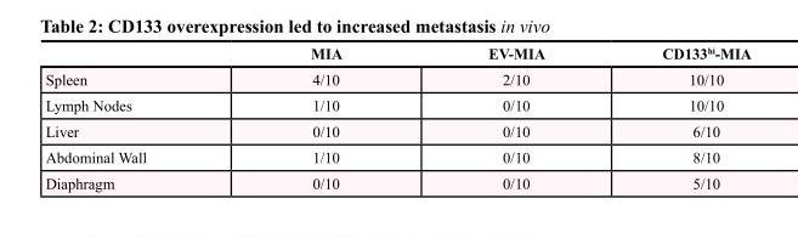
<table><thead><tr><td></td><td>MIA</td><td>EV-MIA</td><td>CD133<sup>hi</sup>-MIA</td></tr></thead><tbody><tr><td>Spleen</td><td>4/10</td><td>2/10</td><td>10/10</td></tr><tr><td>Lymph Nodes</td><td>1/10</td><td>0/10</td><td>10/10</td></tr><tr><td>Liver</td><td>0/10</td><td>0/10</td><td>6/10</td></tr><tr><td>Abdominal Wall</td><td>1/10</td><td>0/10</td><td>8/10</td></tr><tr><td>Diaphragm</td><td>0/10</td><td>0/10</td><td>5/10</td></tr></tbody></table>